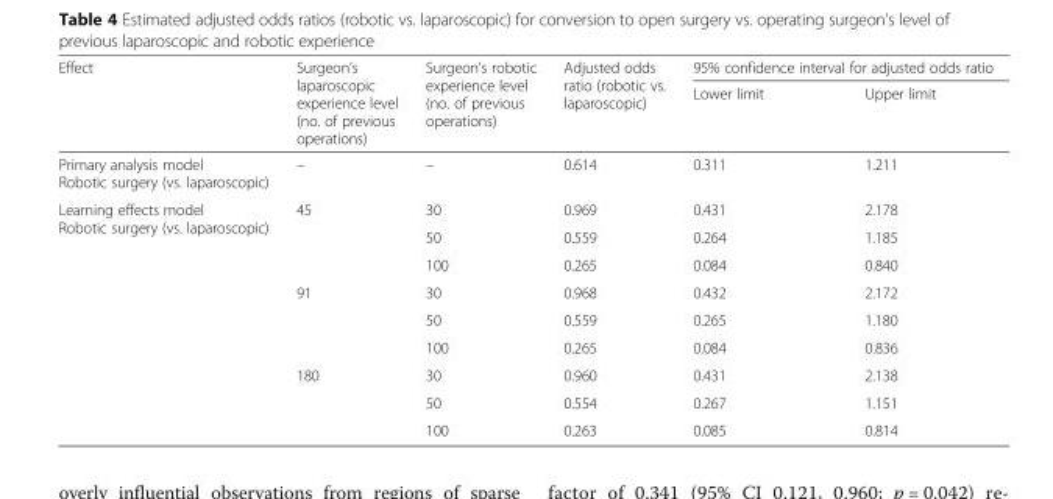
<table><thead><tr><td rowspan="2">Effect</td><td rowspan="2">Surgeon’s laparoscopic experience level (no. of previous operations)</td><td rowspan="2">Surgeon’s robotic experience level (no. of previous operations)</td><td rowspan="2">Adjusted odds ratio (robotic vs. laparoscopic)</td><td colspan="2">95% confidence interval for adjusted odds ratio</td></tr><tr><td>Lower limit</td><td>Upper limit</td></tr></thead><tbody><tr><td>Primary analysis model Robotic surgery (vs. laparoscopic)</td><td>–</td><td>–</td><td>0.614</td><td>0.311</td><td>1.211</td></tr><tr><td rowspan="9">Learning effects model Robotic surgery (vs. laparoscopic)</td><td rowspan="3">45</td><td>30</td><td>0.969</td><td>0.431</td><td>2.178</td></tr><tr><td>50</td><td>0.559</td><td>0.264</td><td>1.185</td></tr><tr><td>100</td><td>0.265</td><td>0.084</td><td>0.840</td></tr><tr><td rowspan="3">91</td><td>30</td><td>0.968</td><td>0.432</td><td>2.172</td></tr><tr><td>50</td><td>0.559</td><td>0.265</td><td>1.180</td></tr><tr><td>100</td><td>0.265</td><td>0.084</td><td>0.836</td></tr><tr><td rowspan="3">180</td><td>30</td><td>0.960</td><td>0.431</td><td>2.138</td></tr><tr><td>50</td><td>0.554</td><td>0.267</td><td>1.151</td></tr><tr><td>100</td><td>0.263</td><td>0.085</td><td>0.814</td></tr></tbody></table>